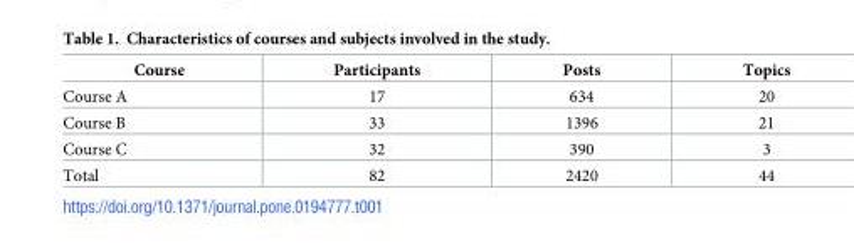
<table><thead><tr><td>Course</td><td>Participants</td><td>Posts</td><td>Topics</td></tr></thead><tbody><tr><td>Course A</td><td>17</td><td>634</td><td>20</td></tr><tr><td>Course B</td><td>33</td><td>1396</td><td>21</td></tr><tr><td>Course C</td><td>32</td><td>390</td><td>3</td></tr><tr><td>Total</td><td>82</td><td>2420</td><td>44</td></tr></tbody></table>